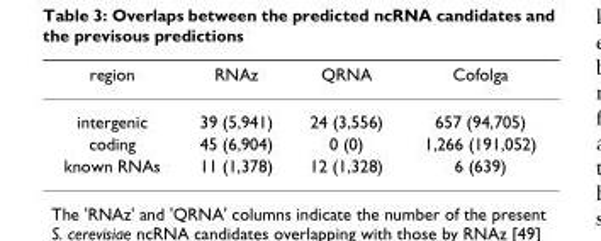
<table><thead><tr><td>region</td><td>RNAz</td><td>QRNA</td><td>Cofolga</td></tr></thead><tbody><tr><td>intergenic</td><td>39 (5,941)</td><td>24 (3,556)</td><td>657 (94,705)</td></tr><tr><td>coding</td><td>45 (6,904)</td><td>0 (0)</td><td>1,266 (191,052)</td></tr><tr><td>known RNAs</td><td>11 (1,378)</td><td>12 (1,328)</td><td>6 (639)</td></tr></tbody></table>